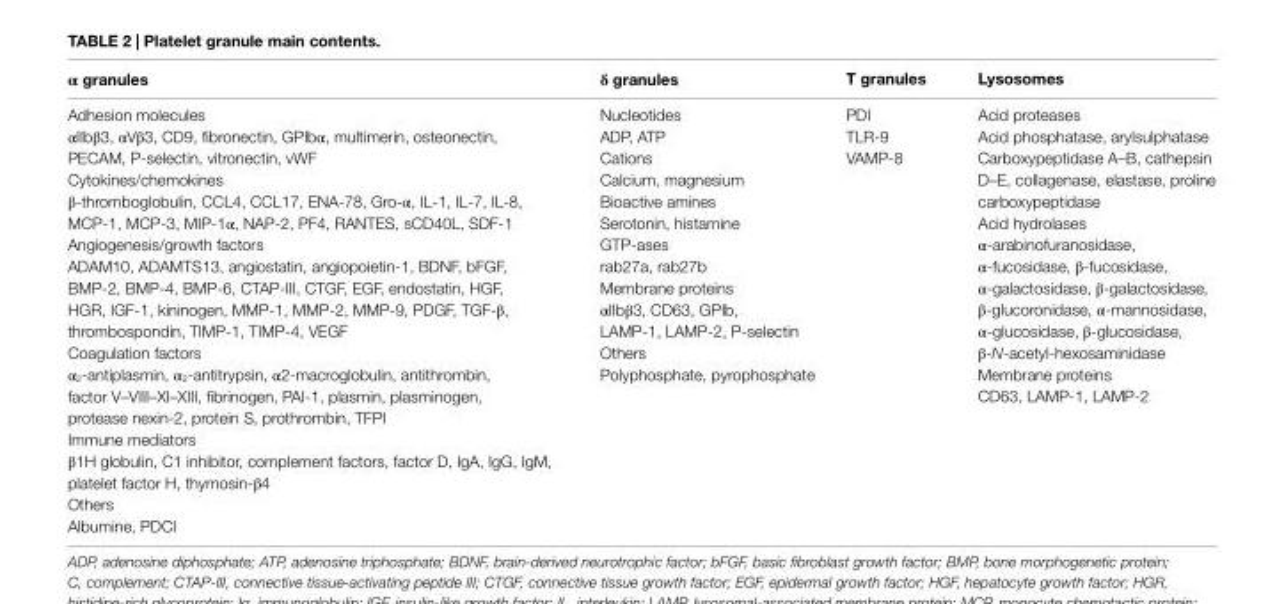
<table><thead><tr><td>α granules</td><td>δ granules</td><td>T granules</td><td>Lysosomes</td></tr></thead><tbody><tr><td>Adhesion molecules αIIbβ3, αVβ3, CD9, fibronectin, GPIbα, multimerin, osteonectin, PECAM, P-selectin, vitronectin, vWF Cytokines/chemokines β-thromboglobulin, CCL4, CCL17, ENA-78, Gro-α, IL-1, IL-7, IL-8, MCP-1, MCP-3, MIP-1α, NAP-2, PF4, RANTES, sCD40L, SDF-1 Angiogenesis/growth factors ADAM10, ADAMTS13, angiostatin, angiopoietin-1, BDNF, bFGF, BMP-2, BMP-4, BMP-6, CTAP-III, CTGF, EGF, endostatin, HGF, HGR, IGF-1, kininogen, MMP-1, MMP-2, MMP-9, PDGF, TGF-β, thrombospondin, TIMP-1, TIMP-4, VEGF Coagulation factors α<sub>2</sub>-antiplasmin, α<sub>2</sub>-antitrypsin, α2-macroglobulin, antithrombin, factor V–VIII–XI–XIII, fibrinogen, PAI-1, plasmin, plasminogen, protease nexin-2, protein S, prothrombin, TFPI Immune mediators β1H globulin, C1 inhibitor, complement factors, factor D, IgA, IgG, IgM, platelet factor H, thymosin-β4 Others Albumine, PDCI</td><td>Nucleotides ADP, ATP Cations Calcium, magnesium Bioactive amines Serotonin, histamine GTP-ases rab27a, rab27b Membrane proteins αIIbβ3, CD63, GPIb, LAMP-1, LAMP-2, P-selectin Others Polyphosphate, pyrophosphate</td><td>PDI TLR-9 VAMP-8</td><td>Acid proteases Acid phosphatase, arylsulphatase Carboxypeptidase A–B, cathepsin D–E, collagenase, elastase, proline carboxypeptidase Acid hydrolases α-arabinofuranosidase, α-fucosidase, β-fucosidase, α-galactosidase, β-galactosidase, β-glucoronidase, α-mannosidase, α-glucosidase, β-glucosidase, β-N-acetyl-hexosaminidase Membrane proteins CD63, LAMP-1, LAMP-2</td></tr></tbody></table>